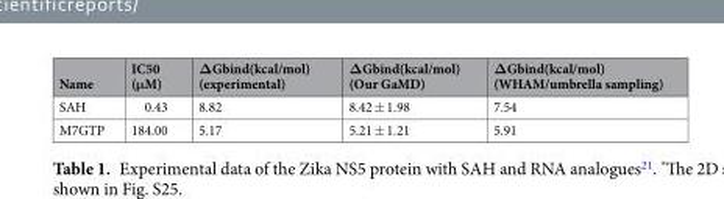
<table><thead><tr><td>Name</td><td>IC50 (μM)</td><td>ΔGbind(kcal/mol) (experimental)</td><td>ΔGbind(kcal/mol) (Our GaMD)</td><td>ΔGbind(kcal/mol) (WHAM/umbrella sampling)</td></tr></thead><tbody><tr><td>SAH</td><td>0.43</td><td>8.82</td><td>8.42 ± 1.98</td><td>7.54</td></tr><tr><td>M7GTP</td><td>184.00</td><td>5.17</td><td>5.21 ± 1.21</td><td>5.91</td></tr></tbody></table>